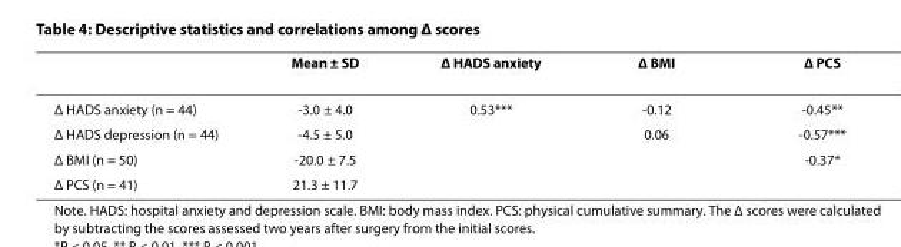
<table><thead><tr><td></td><td>Mean ± SD</td><td>Δ HADS anxiety</td><td>Δ BMI</td><td>Δ PCS</td></tr></thead><tbody><tr><td>Δ HADS anxiety (n = 44)</td><td>-3.0 ± 4.0</td><td>0.53***</td><td>-0.12</td><td>-0.45**</td></tr><tr><td>Δ HADS depression (n = 44)</td><td>-4.5 ± 5.0</td><td></td><td>0.06</td><td>-0.57***</td></tr><tr><td>Δ BMI (n = 50)</td><td>-20.0 ± 7.5</td><td></td><td></td><td>-0.37*</td></tr><tr><td>Δ PCS (n = 41)</td><td>21.3 ± 11.7</td><td></td><td></td><td></td></tr></tbody></table>